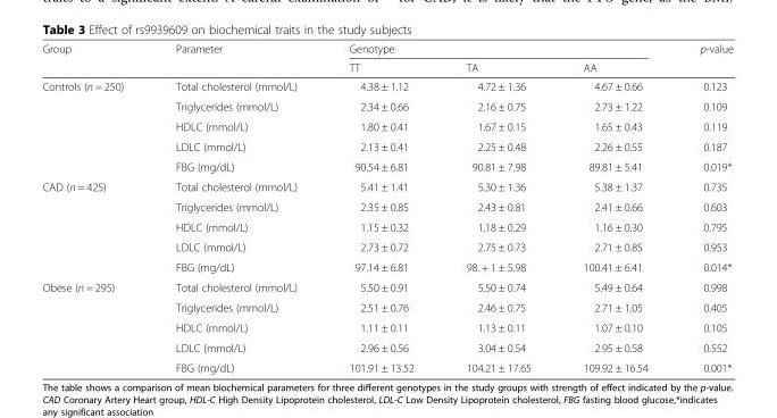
<table><thead><tr><td rowspan="2">Group</td><td rowspan="2">Parameter</td><td colspan="3">Genotype</td><td rowspan="2">p-value</td></tr><tr><td>TT</td><td>TA</td><td>AA</td></tr></thead><tbody><tr><td rowspan="5">Controls (n = 250)</td><td>Total cholesterol (mmol/L)</td><td>4.38 ± 1.12</td><td>4.72 ± 1.36</td><td>4.67 ± 0.66</td><td>0.123</td></tr><tr><td>Triglycerides (mmol/L)</td><td>2.34 ± 0.66</td><td>2.16 ± 0.75</td><td>2.73 ± 1.22</td><td>0.109</td></tr><tr><td>HDLC (mmol/L)</td><td>1.80 ± 0.41</td><td>1.67 ± 0.15</td><td>1.65 ± 0.43</td><td>0.119</td></tr><tr><td>LDLC (mmol/L)</td><td>2.13 ± 0.41</td><td>2.25 ± 0.48</td><td>2.26 ± 0.55</td><td>0.187</td></tr><tr><td>FBG (mg/dL)</td><td>90.54 ± 6.81</td><td>90.81 ± 7.98</td><td>89.81 ± 5.41</td><td>0.019*</td></tr><tr><td rowspan="5">CAD (n = 425)</td><td>Total cholesterol (mmol/L)</td><td>5.41 ± 1.41</td><td>5.30 ± 1.36</td><td>5.38 ± 1.37</td><td>0.735</td></tr><tr><td>Triglycerides (mmol/L)</td><td>2.35 ± 0.85</td><td>2.43 ± 0.81</td><td>2.41 ± 0.66</td><td>0.603</td></tr><tr><td>HDLC (mmol/L)</td><td>1.15 ± 0.32</td><td>1.18 ± 0.29</td><td>1.16 ± 0.30</td><td>0.795</td></tr><tr><td>LDLC (mmol/L)</td><td>2.73 ± 0.72</td><td>2.75 ± 0.73</td><td>2.71 ± 0.85</td><td>0.953</td></tr><tr><td>FBG (mg/dL)</td><td>97.14 ± 6.81</td><td>98. + 1 ± 5.98</td><td>100.41 ± 6.41</td><td>0.014*</td></tr><tr><td rowspan="5">Obese (n = 295)</td><td>Total cholesterol (mmol/L)</td><td>5.50 ± 0.91</td><td>5.50 ± 0.74</td><td>5.49 ± 0.64</td><td>0.998</td></tr><tr><td>Triglycerides (mmol/L)</td><td>2.51 ± 0.76</td><td>2.46 ± 0.75</td><td>2.71 ± 1.05</td><td>0.405</td></tr><tr><td>HDLC (mmol/L)</td><td>1.11 ± 0.11</td><td>1.13 ± 0.11</td><td>1.07 ± 0.10</td><td>0.105</td></tr><tr><td>LDLC (mmol/L)</td><td>2.96 ± 0.56</td><td>3.04 ± 0.54</td><td>2.95 ± 0.58</td><td>0.552</td></tr><tr><td>FBG (mg/dL)</td><td>101.91 ± 13.52</td><td>104.21 ± 17.65</td><td>109.92 ± 16.54</td><td>0.001*</td></tr></tbody></table>